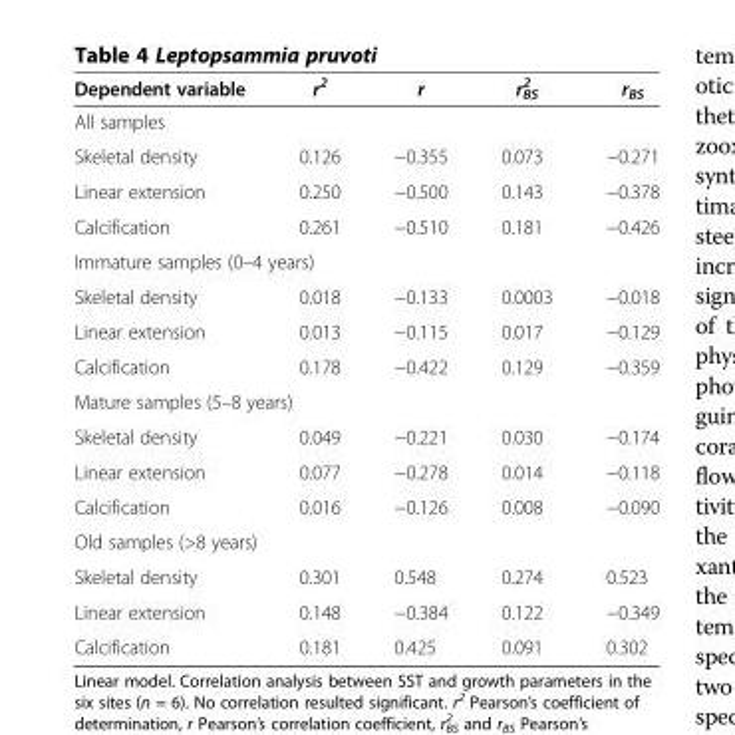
<table><thead><tr><td>Dependent variable</td><td>r<sup>2</sup></td><td>r</td><td>r<sup>2</sup> <sub>BS</sub></td><td>r<sub>BS</sub></td></tr></thead><tbody><tr><td colspan="5">All samples</td></tr><tr><td>Skeletal density</td><td>0.126</td><td>−0.355</td><td>0.073</td><td>−0.271</td></tr><tr><td>Linear extension</td><td>0.250</td><td>−0.500</td><td>0.143</td><td>−0.378</td></tr><tr><td>Calcification</td><td>0.261</td><td>−0.510</td><td>0.181</td><td>−0.426</td></tr><tr><td colspan="5">Immature samples (0–4 years)</td></tr><tr><td>Skeletal density</td><td>0.018</td><td>−0.133</td><td>0.0003</td><td>−0.018</td></tr><tr><td>Linear extension</td><td>0.013</td><td>−0.115</td><td>0.017</td><td>−0.129</td></tr><tr><td>Calcification</td><td>0.178</td><td>−0.422</td><td>0.129</td><td>−0.359</td></tr><tr><td colspan="5">Mature samples (5–8 years)</td></tr><tr><td>Skeletal density</td><td>0.049</td><td>−0.221</td><td>0.030</td><td>−0.174</td></tr><tr><td>Linear extension</td><td>0.077</td><td>−0.278</td><td>0.014</td><td>−0.118</td></tr><tr><td>Calcification</td><td>0.016</td><td>−0.126</td><td>0.008</td><td>−0.090</td></tr><tr><td colspan="5">Old samples (&gt;8 years)</td></tr><tr><td>Skeletal density</td><td>0.301</td><td>0.548</td><td>0.274</td><td>0.523</td></tr><tr><td>Linear extension</td><td>0.148</td><td>−0.384</td><td>0.122</td><td>−0.349</td></tr><tr><td>Calcification</td><td>0.181</td><td>0.425</td><td>0.091</td><td>0.302</td></tr></tbody></table>